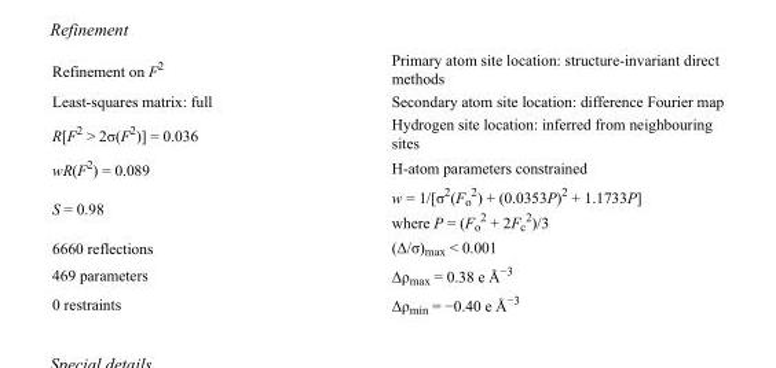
<table><tbody><tr><td>Refinement on F<sup>2</sup></td><td>Primary atom site location: structure-invariant direct methods</td></tr><tr><td>Least-squares matrix: full</td><td>Secondary atom site location: difference Fourier map</td></tr><tr><td>R[F<sup>2</sup> &gt; 2σ(F<sup>2</sup>)] = 0.036</td><td>Hydrogen site location: inferred from neighbouring sites</td></tr><tr><td>wR(F<sup>2</sup>) = 0.089</td><td>H-atom parameters constrained</td></tr><tr><td>S = 0.98</td><td>w = 1/[σ<sup>2</sup>(F<sub>o</sub> <sup>2</sup>) + (0.0353P)<sup>2</sup> + 1.1733P] where P = (F<sub>o</sub> <sup>2</sup> + 2F<sub>c</sub> <sup>2</sup>)/3</td></tr><tr><td>6660 reflections</td><td>(Δ/σ)<sub>max</sub> &lt; 0.001</td></tr><tr><td>469 parameters</td><td>Δρ<sub>max</sub> = 0.38 e Å<sup>−3</sup></td></tr><tr><td>0 restraints</td><td>Δρ<sub>min</sub> = −0.40 e Å<sup>−3</sup></td></tr></tbody></table>